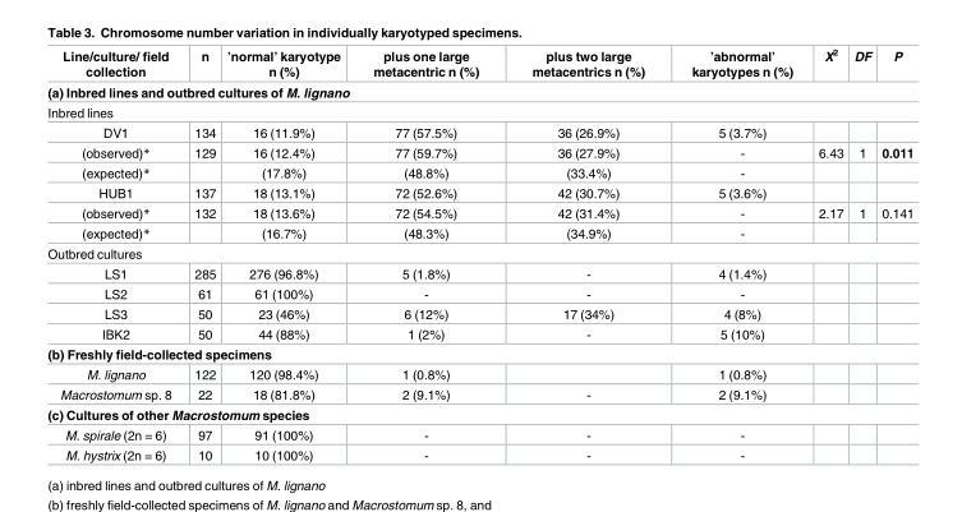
<table><thead><tr><td>Line/culture/ field collection</td><td>n</td><td>’normal’ karyotype n (%)</td><td>plus one large metacentric n (%)</td><td>plus two large metacentrics n (%)</td><td>’abnormal’ karyotypes n (%)</td><td>X<sup>2</sup></td><td>DF</td><td>P</td></tr></thead><tbody><tr><td colspan="9">(a) Inbred lines and outbred cultures of M. lignano</td></tr><tr><td colspan="9">Inbred lines</td></tr><tr><td>DV1</td><td>134</td><td>16 (11.9%)</td><td>77 (57.5%)</td><td>36 (26.9%)</td><td>5 (3.7%)</td><td></td><td></td><td></td></tr><tr><td>(observed)*</td><td>129</td><td>16 (12.4%)</td><td>77 (59.7%)</td><td>36 (27.9%)</td><td>-</td><td>6.43</td><td>1</td><td>0.011</td></tr><tr><td>(expected)*</td><td></td><td>(17.8%)</td><td>(48.8%)</td><td>(33.4%)</td><td>-</td><td></td><td></td><td></td></tr><tr><td>HUB1</td><td>137</td><td>18 (13.1%)</td><td>72 (52.6%)</td><td>42 (30.7%)</td><td>5 (3.6%)</td><td></td><td></td><td></td></tr><tr><td>(observed)*</td><td>132</td><td>18 (13.6%)</td><td>72 (54.5%)</td><td>42 (31.4%)</td><td>-</td><td>2.17</td><td>1</td><td>0.141</td></tr><tr><td>(expected)*</td><td></td><td>(16.7%)</td><td>(48.3%)</td><td>(34.9%)</td><td>-</td><td></td><td></td><td></td></tr><tr><td colspan="9">Outbred cultures</td></tr><tr><td>LS1</td><td>285</td><td>276 (96.8%)</td><td>5 (1.8%)</td><td>-</td><td>4 (1.4%)</td><td></td><td></td><td></td></tr><tr><td>LS2</td><td>61</td><td>61 (100%)</td><td>-</td><td>-</td><td>-</td><td></td><td></td><td></td></tr><tr><td>LS3</td><td>50</td><td>23 (46%)</td><td>6 (12%)</td><td>17 (34%)</td><td>4 (8%)</td><td></td><td></td><td></td></tr><tr><td>IBK2</td><td>50</td><td>44 (88%)</td><td>1 (2%)</td><td>-</td><td>5 (10%)</td><td></td><td></td><td></td></tr><tr><td colspan="9">(b) Freshly field-collected specimens</td></tr><tr><td>M. lignano</td><td>122</td><td>120 (98.4%)</td><td>1 (0.8%)</td><td></td><td>1 (0.8%)</td><td></td><td></td><td></td></tr><tr><td>Macrostomum sp. 8</td><td>22</td><td>18 (81.8%)</td><td>2 (9.1%)</td><td>-</td><td>2 (9.1%)</td><td></td><td></td><td></td></tr><tr><td colspan="9">(c) Cultures of other Macrostomum species</td></tr><tr><td>M. spirale (2n = 6)</td><td>97</td><td>91 (100%)</td><td>-</td><td>-</td><td>-</td><td></td><td></td><td></td></tr><tr><td>M. hystrix (2n = 6)</td><td>10</td><td>10 (100%)</td><td>-</td><td>-</td><td>-</td><td></td><td></td><td></td></tr></tbody></table>